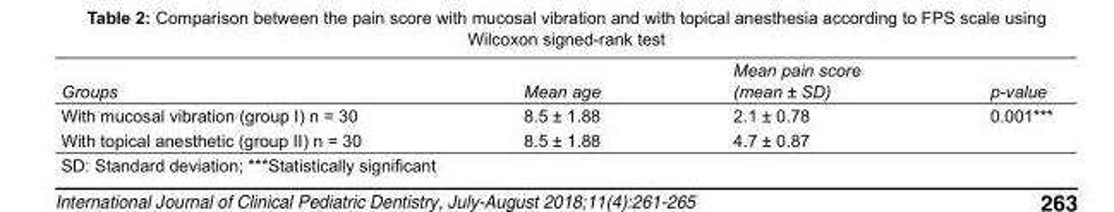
<table><tbody><tr><td>Groups</td><td>Mean age</td><td>Mean pain score (mean ± SD)</td><td>p-value</td></tr><tr><td>With mucosal vibration (group I) n = 30</td><td>8.5 ± 1.88</td><td>2.1 ± 0.78</td><td>0.001***</td></tr><tr><td>With topical anesthetic (group II) n = 30</td><td>8.5 ± 1.88</td><td>4.7 ± 0.87</td><td></td></tr></tbody></table>